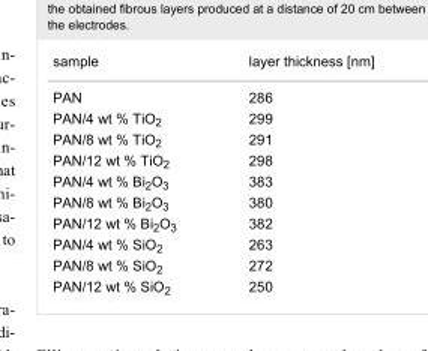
<table><tbody><tr><td>sample</td><td>layer thickness [nm]</td></tr><tr><td>PAN</td><td>286</td></tr><tr><td>PAN/4 wt % TiO<sub>2</sub></td><td>299</td></tr><tr><td>PAN/8 wt % TiO<sub>2</sub></td><td>291</td></tr><tr><td>PAN/12 wt % TiO<sub>2</sub></td><td>298</td></tr><tr><td>PAN/4 wt % Bi<sub>2</sub>O<sub>3</sub></td><td>383</td></tr><tr><td>PAN/8 wt % Bi<sub>2</sub>O<sub>3</sub></td><td>380</td></tr><tr><td>PAN/12 wt % Bi<sub>2</sub>O<sub>3</sub></td><td>382</td></tr><tr><td>PAN/4 wt % SiO<sub>2</sub></td><td>263</td></tr><tr><td>PAN/8 wt % SiO<sub>2</sub></td><td>272</td></tr><tr><td>PAN/12 wt % SiO<sub>2</sub></td><td>250</td></tr></tbody></table>